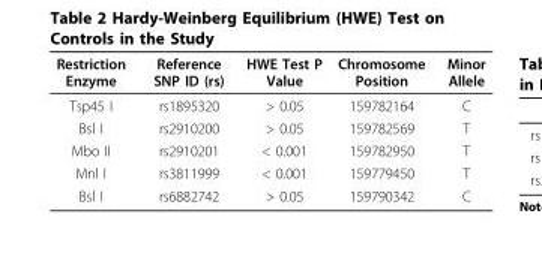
<table><thead><tr><td>Restriction Enzyme</td><td>Reference SNP ID (rs)</td><td>HWE Test P Value</td><td>Chromosome Position</td><td>Minor Allele</td></tr></thead><tbody><tr><td>Tsp45 I</td><td>rs1895320</td><td>&gt; 0.05</td><td>159782164</td><td>C</td></tr><tr><td>Bsl I</td><td>rs2910200</td><td>&gt; 0.05</td><td>159782569</td><td>T</td></tr><tr><td>Mbo II</td><td>rs2910201</td><td>&lt; 0.001</td><td>159782950</td><td>T</td></tr><tr><td>Mnl I</td><td>rs3811999</td><td>&lt; 0.001</td><td>159779450</td><td>T</td></tr><tr><td>Bsl I</td><td>rs6882742</td><td>&gt; 0.05</td><td>159790342</td><td>C</td></tr></tbody></table>